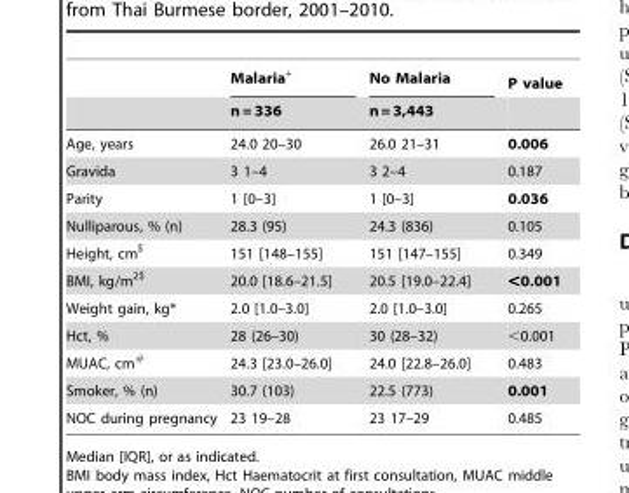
<table><thead><tr><td rowspan="2"></td><td rowspan="2">Malaria+ n = 336</td><td rowspan="2">No Malaria n = 3,443</td><td rowspan="2">P value</td></tr><tr></tr></thead><tbody><tr><td>Age, years</td><td>24.0 20–30</td><td>26.0 21–31</td><td>0.006</td></tr><tr><td>Gravida</td><td>3 1–4</td><td>3 2–4</td><td>0.187</td></tr><tr><td>Parity</td><td>1 [0–3]</td><td>1 [0–3]</td><td>0.036</td></tr><tr><td>Nulliparous, % (n)</td><td>28.3 (95)</td><td>24.3 (836)</td><td>0.105</td></tr><tr><td>Height, cm$</td><td>151 [148–155]</td><td>151 [147–155]</td><td>0.349</td></tr><tr><td>BMI, kg/m<sup>2</sup>$</td><td>20.0 [18.6–21.5]</td><td>20.5 [19.0–22.4]</td><td>&lt;0.001</td></tr><tr><td>Weight gain, kg*</td><td>2.0 [1.0–3.0]</td><td>2.0 [1.0–3.0]</td><td>0.265</td></tr><tr><td>Hct, %</td><td>28 (26–30)</td><td>30 (28–32)</td><td>&lt;0.001</td></tr><tr><td>MUAC, cm#</td><td>24.3 [23.0–26.0]</td><td>24.0 [22.8–26.0]</td><td>0.483</td></tr><tr><td>Smoker, % (n)</td><td>30.7 (103)</td><td>22.5 (773)</td><td>0.001</td></tr><tr><td>NOC during pregnancy</td><td>23 19–28</td><td>23 17–29</td><td>0.485</td></tr></tbody></table>